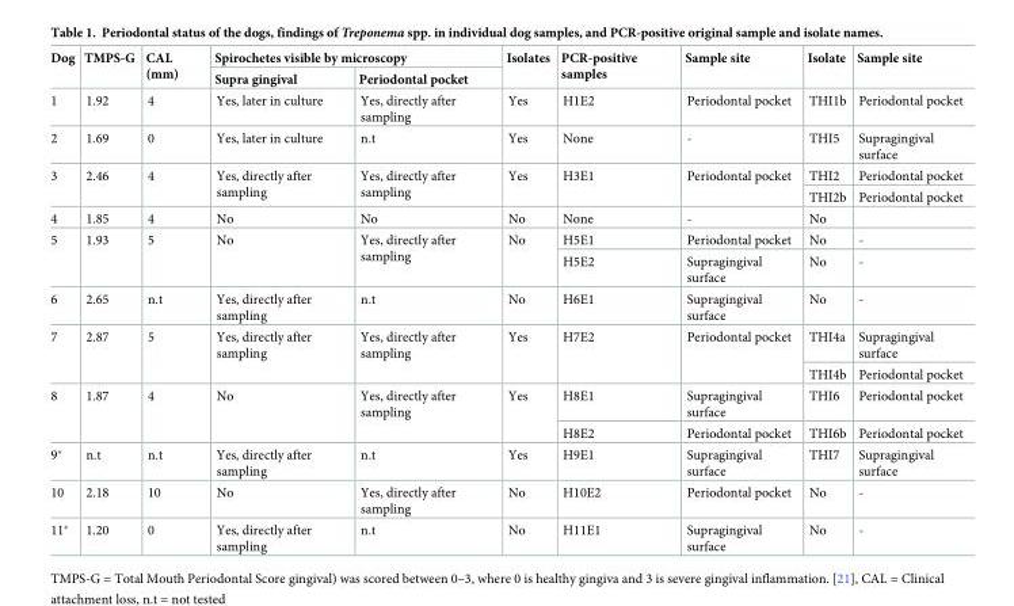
<table><thead><tr><td rowspan="2">Dog</td><td rowspan="2">TMPS-G</td><td rowspan="2">CAL (mm)</td><td colspan="2">Spirochetes visible by microscopy</td><td rowspan="2">Isolates</td><td rowspan="2">PCR-positive samples</td><td rowspan="2">Sample site</td><td rowspan="2">Isolate</td><td rowspan="2">Sample site</td></tr><tr><td>Supra gingival</td><td>Periodontal pocket</td></tr></thead><tbody><tr><td>1</td><td>1.92</td><td>4</td><td>Yes, later in culture</td><td>Yes, directly after sampling</td><td>Yes</td><td>H1E2</td><td>Periodontal pocket</td><td>THI1b</td><td>Periodontal pocket</td></tr><tr><td>2</td><td>1.69</td><td>0</td><td>Yes, later in culture</td><td>n.t</td><td>Yes</td><td>None</td><td>-</td><td>THI5</td><td>Supragingival surface</td></tr><tr><td rowspan="2">3</td><td rowspan="2">2.46</td><td rowspan="2">4</td><td rowspan="2">Yes, directly after sampling</td><td rowspan="2">Yes, directly after sampling</td><td rowspan="2">Yes</td><td rowspan="2">H3E1</td><td rowspan="2">Periodontal pocket</td><td>THI2</td><td>Periodontal pocket</td></tr><tr><td>THI2b</td><td>Periodontal pocket</td></tr><tr><td>4</td><td>1.85</td><td>4</td><td>No</td><td>No</td><td>No</td><td>None</td><td>-</td><td>No</td><td></td></tr><tr><td rowspan="2">5</td><td rowspan="2">1.93</td><td rowspan="2">5</td><td rowspan="2">No</td><td rowspan="2">Yes, directly after sampling</td><td rowspan="2">No</td><td>H5E1</td><td>Periodontal pocket</td><td>No</td><td>-</td></tr><tr><td>H5E2</td><td>Supragingival surface</td><td>No</td><td>-</td></tr><tr><td>6</td><td>2.65</td><td>n.t</td><td>Yes, directly after sampling</td><td>n.t</td><td>No</td><td>H6E1</td><td>Supragingival surface</td><td>No</td><td>-</td></tr><tr><td rowspan="2">7</td><td rowspan="2">2.87</td><td rowspan="2">5</td><td rowspan="2">Yes, directly after sampling</td><td rowspan="2">Yes, directly after sampling</td><td rowspan="2">Yes</td><td rowspan="2">H7E2</td><td rowspan="2">Periodontal pocket</td><td>THI4a</td><td>Supragingival surface</td></tr><tr><td>THI4b</td><td>Periodontal pocket</td></tr><tr><td rowspan="2">8</td><td rowspan="2">1.87</td><td rowspan="2">4</td><td rowspan="2">No</td><td rowspan="2">Yes, directly after sampling</td><td rowspan="2">Yes</td><td>H8E1</td><td>Supragingival surface</td><td>THI6</td><td>Periodontal pocket</td></tr><tr><td>H8E2</td><td>Periodontal pocket</td><td>THI6b</td><td>Periodontal pocket</td></tr><tr><td>9*</td><td>n.t</td><td>n.t</td><td>Yes, directly after sampling</td><td>n.t</td><td>Yes</td><td>H9E1</td><td>Supragingival surface</td><td>THI7</td><td>Supragingival surface</td></tr><tr><td>10</td><td>2.18</td><td>10</td><td>No</td><td>Yes, directly after sampling</td><td>No</td><td>H10E2</td><td>Periodontal pocket</td><td>No</td><td>-</td></tr><tr><td>11*</td><td>1.20</td><td>0</td><td>Yes, directly after sampling</td><td>n.t</td><td>No</td><td>H11E1</td><td>Supragingival surface</td><td>No</td><td>-</td></tr></tbody></table>